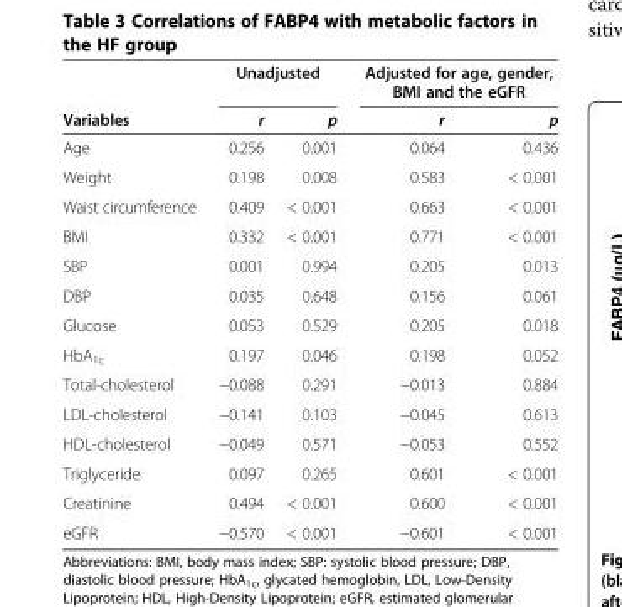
<table><thead><tr><td rowspan="2">Variables</td><td colspan="2">Unadjusted</td><td colspan="2">Adjusted for age, gender, BMI and the eGFR</td></tr><tr><td>r</td><td>p</td><td>r</td><td>p</td></tr></thead><tbody><tr><td>Age</td><td>0.256</td><td>0.001</td><td>0.064</td><td>0.436</td></tr><tr><td>Weight</td><td>0.198</td><td>0.008</td><td>0.583</td><td>&lt; 0.001</td></tr><tr><td>Waist circumference</td><td>0.409</td><td>&lt; 0.001</td><td>0.663</td><td>&lt; 0.001</td></tr><tr><td>BMI</td><td>0.332</td><td>&lt; 0.001</td><td>0.771</td><td>&lt; 0.001</td></tr><tr><td>SBP</td><td>0.001</td><td>0.994</td><td>0.205</td><td>0.013</td></tr><tr><td>DBP</td><td>0.035</td><td>0.648</td><td>0.156</td><td>0.061</td></tr><tr><td>Glucose</td><td>0.053</td><td>0.529</td><td>0.205</td><td>0.018</td></tr><tr><td>HbA<sub>1c</sub></td><td>0.197</td><td>0.046</td><td>0.198</td><td>0.052</td></tr><tr><td>Total-cholesterol</td><td>−0.088</td><td>0.291</td><td>−0.013</td><td>0.884</td></tr><tr><td>LDL-cholesterol</td><td>−0.141</td><td>0.103</td><td>−0.045</td><td>0.613</td></tr><tr><td>HDL-cholesterol</td><td>−0.049</td><td>0.571</td><td>−0.053</td><td>0.552</td></tr><tr><td>Triglyceride</td><td>0.097</td><td>0.265</td><td>0.601</td><td>&lt; 0.001</td></tr><tr><td>Creatinine</td><td>0.494</td><td>&lt; 0.001</td><td>0.600</td><td>&lt; 0.001</td></tr><tr><td>eGFR</td><td>−0.570</td><td>&lt; 0.001</td><td>−0.601</td><td>&lt; 0.001</td></tr></tbody></table>